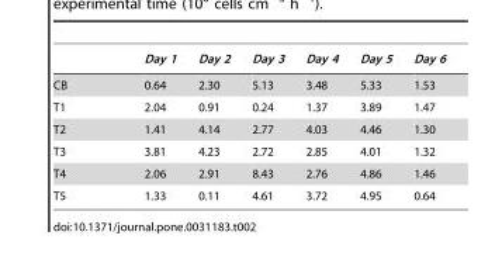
<table><thead><tr><td></td><td>Day 1</td><td>Day 2</td><td>Day 3</td><td>Day 4</td><td>Day 5</td><td>Day 6</td></tr></thead><tbody><tr><td>CB</td><td>0.64</td><td>2.30</td><td>5.13</td><td>3.48</td><td>5.33</td><td>1.53</td></tr><tr><td>T1</td><td>2.04</td><td>0.91</td><td>0.24</td><td>1.37</td><td>3.89</td><td>1.47</td></tr><tr><td>T2</td><td>1.41</td><td>4.14</td><td>2.77</td><td>4.03</td><td>4.46</td><td>1.30</td></tr><tr><td>T3</td><td>3.81</td><td>4.23</td><td>2.72</td><td>2.85</td><td>4.01</td><td>1.32</td></tr><tr><td>T4</td><td>2.06</td><td>2.91</td><td>8.43</td><td>2.76</td><td>4.86</td><td>1.46</td></tr><tr><td>T5</td><td>1.33</td><td>0.11</td><td>4.61</td><td>3.72</td><td>4.95</td><td>0.64</td></tr></tbody></table>